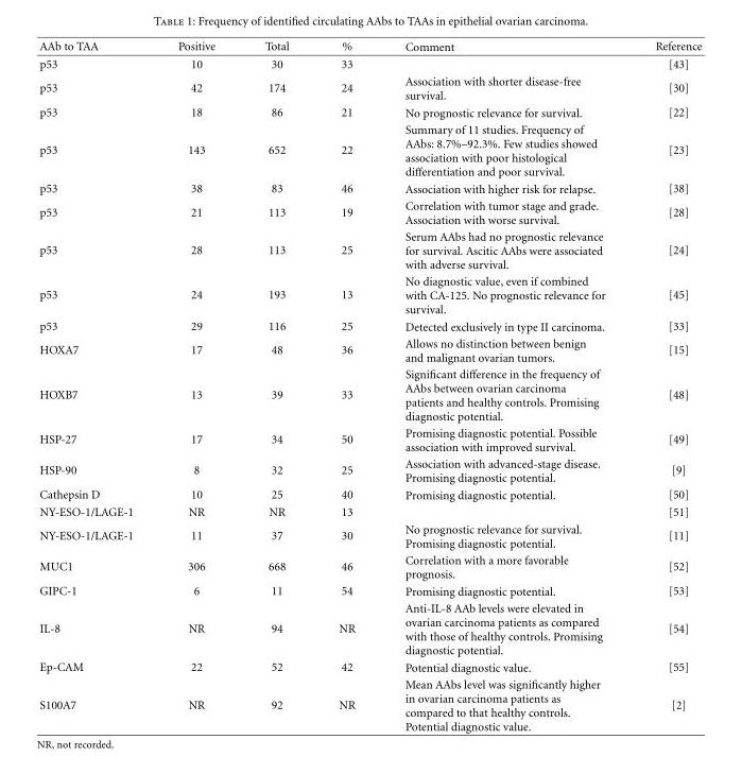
<table><thead><tr><td>AAb to TAA</td><td>Positive</td><td>Total</td><td>%</td><td>Comment</td><td>Reference</td></tr></thead><tbody><tr><td>p53</td><td>10</td><td>30</td><td>33</td><td></td><td>[43]</td></tr><tr><td>p53</td><td>42</td><td>174</td><td>24</td><td>Association with shorter disease-free survival.</td><td>[30]</td></tr><tr><td>p53</td><td>18</td><td>86</td><td>21</td><td>No prognostic relevance for survival.</td><td>[22]</td></tr><tr><td>p53</td><td>143</td><td>652</td><td>22</td><td>Summary of 11 studies. Frequency of AAbs: 8.7%–92.3%. Few studies showed association with poor histological differentiation and poor survival.</td><td>[23]</td></tr><tr><td>p53</td><td>38</td><td>83</td><td>46</td><td>Association with higher risk for relapse.</td><td>[38]</td></tr><tr><td>p53</td><td>21</td><td>113</td><td>19</td><td>Correlation with tumor stage and grade. Association with worse survival.</td><td>[28]</td></tr><tr><td>p53</td><td>28</td><td>113</td><td>25</td><td>Serum AAbs had no prognostic relevance for survival. Ascitic AAbs were associated with adverse survival.</td><td>[24]</td></tr><tr><td>p53</td><td>24</td><td>193</td><td>13</td><td>No diagnostic value, even if combined with CA-125. No prognostic relevance for survival.</td><td>[45]</td></tr><tr><td>p53</td><td>29</td><td>116</td><td>25</td><td>Detected exclusively in type II carcinoma.</td><td>[33]</td></tr><tr><td>HOXA7</td><td>17</td><td>48</td><td>36</td><td>Allows no distinction between benign and malignant ovarian tumors.</td><td>[15]</td></tr><tr><td>HOXB7</td><td>13</td><td>39</td><td>33</td><td>Significant difference in the frequency of AAbs between ovarian carcinoma patients and healthy controls. Promising diagnostic potential.</td><td>[48]</td></tr><tr><td>HSP-27</td><td>17</td><td>34</td><td>50</td><td>Promising diagnostic potential. Possible association with improved survival.</td><td>[49]</td></tr><tr><td>HSP-90</td><td>8</td><td>32</td><td>25</td><td>Association with advanced-stage disease. Promising diagnostic potential.</td><td>[9]</td></tr><tr><td>Cathepsin D</td><td>10</td><td>25</td><td>40</td><td>Promising diagnostic potential.</td><td>[50]</td></tr><tr><td>NY-ESO-1/LAGE-1</td><td>NR</td><td>NR</td><td>13</td><td></td><td>[51]</td></tr><tr><td>NY-ESO-1/LAGE-1</td><td>11</td><td>37</td><td>30</td><td>No prognostic relevance for survival. Promising diagnostic potential.</td><td>[11]</td></tr><tr><td>MUC1</td><td>306</td><td>668</td><td>46</td><td>Correlation with a more favorable prognosis.</td><td>[52]</td></tr><tr><td>GIPC-1</td><td>6</td><td>11</td><td>54</td><td>Promising diagnostic potential.</td><td>[53]</td></tr><tr><td>IL-8</td><td>NR</td><td>94</td><td>NR</td><td>Anti-IL-8 AAb levels were elevated in ovarian carcinoma patients as compared with those of healthy controls. Promising diagnostic potential.</td><td>[54]</td></tr><tr><td>Ep-CAM</td><td>22</td><td>52</td><td>42</td><td>Potential diagnostic value.</td><td>[55]</td></tr><tr><td>S100A7</td><td>NR</td><td>92</td><td>NR</td><td>Mean AAbs level was significantly higher in ovarian carcinoma patients as compared to that healthy controls. Potential diagnostic value.</td><td>[2]</td></tr></tbody></table>